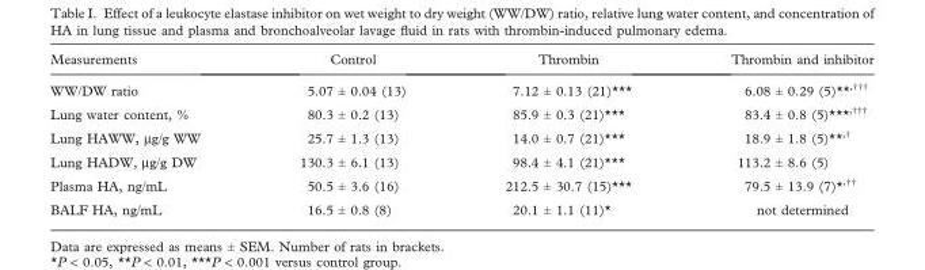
<table><thead><tr><td>Measurements</td><td>Control</td><td>Thrombin</td><td>Thrombin and inhibitor</td></tr></thead><tbody><tr><td>WW/DW ratio</td><td>5.07 ± 0.04 (13)</td><td>7.12 ± 0.13 (21)***</td><td>6.08 ± 0.29 (5)**<sup>,†††</sup></td></tr><tr><td>Lung water content, %</td><td>80.3 ± 0.2 (13)</td><td>85.9 ± 0.3 (21)***</td><td>83.4 ± 0.8 (5)***<sup>,†††</sup></td></tr><tr><td>Lung HAWW, μg/g WW</td><td>25.7 ± 1.3 (13)</td><td>14.0 ± 0.7 (21)***</td><td>18.9 ± 1.8 (5)**<sup>,†</sup></td></tr><tr><td>Lung HADW, μg/g DW</td><td>130.3 ± 6.1 (13)</td><td>98.4 ± 4.1 (21)***</td><td>113.2 ± 8.6 (5)</td></tr><tr><td>Plasma HA, ng/mL</td><td>50.5 ± 3.6 (16)</td><td>212.5 ± 30.7 (15)***</td><td>79.5 ± 13.9 (7)*<sup>,††</sup></td></tr><tr><td>BALF HA, ng/mL</td><td>16.5 ± 0.8 (8)</td><td>20.1 ± 1.1 (11)*</td><td>not determined</td></tr></tbody></table>